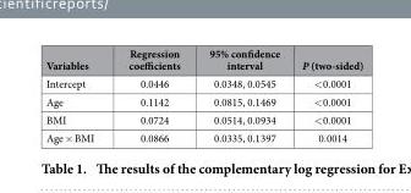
<table><thead><tr><td>Variables</td><td>Regression coefficients</td><td>95% confidence interval</td><td>P (two-sided)</td></tr></thead><tbody><tr><td>Intercept</td><td>0.0446</td><td>0.0348, 0.0545</td><td>&lt; 0.0001</td></tr><tr><td>Age</td><td>0.1142</td><td>0.0815, 0.1469</td><td>&lt; 0.0001</td></tr><tr><td>BMI</td><td>0.0724</td><td>0.0514, 0.0934</td><td>&lt; 0.0001</td></tr><tr><td>Age × BMI</td><td>0.0866</td><td>0.0335, 0.1397</td><td>0.0014</td></tr></tbody></table>